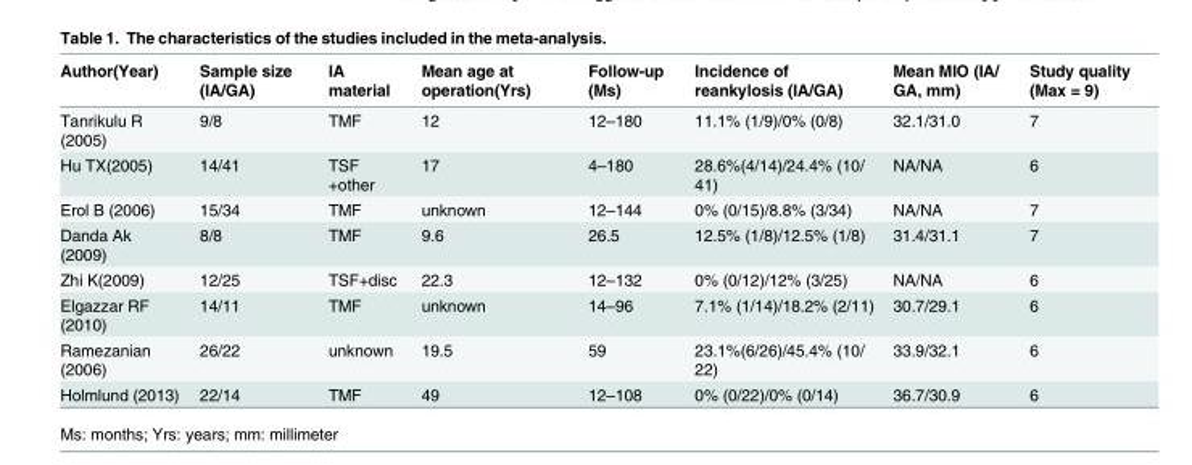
<table><thead><tr><td>Author(Year)</td><td>Sample size (IA/GA)</td><td>IA material</td><td>Mean age at operation(Yrs)</td><td>Follow-up (Ms)</td><td>Incidence of reankylosis (IA/GA)</td><td>Mean MIO (IA/ GA, mm)</td><td>Study quality (Max = 9)</td></tr></thead><tbody><tr><td>Tanrikulu R (2005)</td><td>9/8</td><td>TMF</td><td>12</td><td>12–180</td><td>11.1% (1/9)/0% (0/8)</td><td>32.1/31.0</td><td>7</td></tr><tr><td>Hu TX(2005)</td><td>14/41</td><td>TSF +other</td><td>17</td><td>4–180</td><td>28.6%(4/14)/24.4% (10/ 41)</td><td>NA/NA</td><td>6</td></tr><tr><td>Erol B (2006)</td><td>15/34</td><td>TMF</td><td>unknown</td><td>12–144</td><td>0% (0/15)/8.8% (3/34)</td><td>NA/NA</td><td>7</td></tr><tr><td>Danda Ak (2009)</td><td>8/8</td><td>TMF</td><td>9.6</td><td>26.5</td><td>12.5% (1/8)/12.5% (1/8)</td><td>31.4/31.1</td><td>7</td></tr><tr><td>Zhi K(2009)</td><td>12/25</td><td>TSF+disc</td><td>22.3</td><td>12–132</td><td>0% (0/12)/12% (3/25)</td><td>NA/NA</td><td>6</td></tr><tr><td>Elgazzar RF (2010)</td><td>14/11</td><td>TMF</td><td>unknown</td><td>14–96</td><td>7.1% (1/14)/18.2% (2/11)</td><td>30.7/29.1</td><td>6</td></tr><tr><td>Ramezanian (2006)</td><td>26/22</td><td>unknown</td><td>19.5</td><td>59</td><td>23.1%(6/26)/45.4% (10/ 22)</td><td>33.9/32.1</td><td>6</td></tr><tr><td>Holmlund (2013)</td><td>22/14</td><td>TMF</td><td>49</td><td>12–108</td><td>0% (0/22)/0% (0/14)</td><td>36.7/30.9</td><td>6</td></tr></tbody></table>